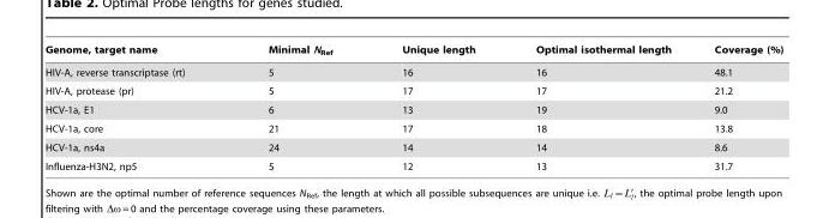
<table><thead><tr><td>Genome, target name</td><td>Minimal N<sub>Ref</sub></td><td>Unique length</td><td>Optimal isothermal length</td><td>Coverage (%)</td></tr></thead><tbody><tr><td>HIV-A, reverse transcriptase (rt)</td><td>5</td><td>16</td><td>16</td><td>48.1</td></tr><tr><td>HIV-A, protease (pr)</td><td>5</td><td>17</td><td>17</td><td>21.2</td></tr><tr><td>HCV-1a, E1</td><td>6</td><td>13</td><td>19</td><td>9.0</td></tr><tr><td>HCV-1a, core</td><td>21</td><td>17</td><td>18</td><td>13.8</td></tr><tr><td>HCV-1a, ns4a</td><td>24</td><td>14</td><td>14</td><td>8.6</td></tr><tr><td>Influenza-H3N2, np5</td><td>5</td><td>12</td><td>13</td><td>31.7</td></tr></tbody></table>